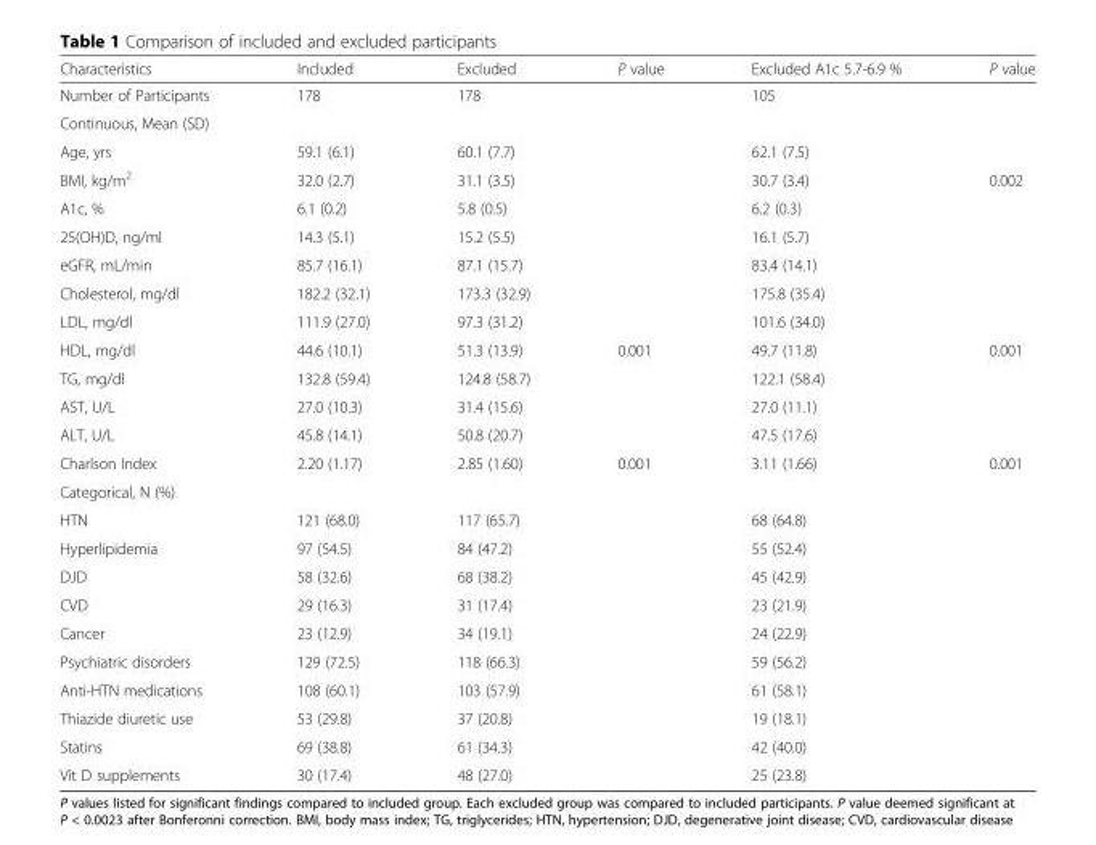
<table><thead><tr><td>Characteristics</td><td>Included</td><td>Excluded</td><td>P value</td><td>Excluded A1c 5.7-6.9 %</td><td>P value</td></tr></thead><tbody><tr><td>Number of Participants</td><td>178</td><td>178</td><td></td><td>105</td><td></td></tr><tr><td colspan="6">Continuous, Mean (SD)</td></tr><tr><td>Age, yrs</td><td>59.1 (6.1)</td><td>60.1 (7.7)</td><td></td><td>62.1 (7.5)</td><td></td></tr><tr><td>BMI, kg/m<sup>2</sup></td><td>32.0 (2.7)</td><td>31.1 (3.5)</td><td></td><td>30.7 (3.4)</td><td>0.002</td></tr><tr><td>A1c, %</td><td>6.1 (0.2)</td><td>5.8 (0.5)</td><td></td><td>6.2 (0.3)</td><td></td></tr><tr><td>25(OH)D, ng/ml</td><td>14.3 (5.1)</td><td>15.2 (5.5)</td><td></td><td>16.1 (5.7)</td><td></td></tr><tr><td>eGFR, mL/min</td><td>85.7 (16.1)</td><td>87.1 (15.7)</td><td></td><td>83.4 (14.1)</td><td></td></tr><tr><td>Cholesterol, mg/dl</td><td>182.2 (32.1)</td><td>173.3 (32.9)</td><td></td><td>175.8 (35.4)</td><td></td></tr><tr><td>LDL, mg/dl</td><td>111.9 (27.0)</td><td>97.3 (31.2)</td><td></td><td>101.6 (34.0)</td><td></td></tr><tr><td>HDL, mg/dl</td><td>44.6 (10.1)</td><td>51.3 (13.9)</td><td>0.001</td><td>49.7 (11.8)</td><td>0.001</td></tr><tr><td>TG, mg/dl</td><td>132.8 (59.4)</td><td>124.8 (58.7)</td><td></td><td>122.1 (58.4)</td><td></td></tr><tr><td>AST, U/L</td><td>27.0 (10.3)</td><td>31.4 (15.6)</td><td></td><td>27.0 (11.1)</td><td></td></tr><tr><td>ALT, U/L</td><td>45.8 (14.1)</td><td>50.8 (20.7)</td><td></td><td>47.5 (17.6)</td><td></td></tr><tr><td>Charlson Index</td><td>2.20 (1.17)</td><td>2.85 (1.60)</td><td>0.001</td><td>3.11 (1.66)</td><td>0.001</td></tr><tr><td colspan="6">Categorical, N (%)</td></tr><tr><td>HTN</td><td>121 (68.0)</td><td>117 (65.7)</td><td></td><td>68 (64.8)</td><td></td></tr><tr><td>Hyperlipidemia</td><td>97 (54.5)</td><td>84 (47.2)</td><td></td><td>55 (52.4)</td><td></td></tr><tr><td>DJD</td><td>58 (32.6)</td><td>68 (38.2)</td><td></td><td>45 (42.9)</td><td></td></tr><tr><td>CVD</td><td>29 (16.3)</td><td>31 (17.4)</td><td></td><td>23 (21.9)</td><td></td></tr><tr><td>Cancer</td><td>23 (12.9)</td><td>34 (19.1)</td><td></td><td>24 (22.9)</td><td></td></tr><tr><td>Psychiatric disorders</td><td>129 (72.5)</td><td>118 (66.3)</td><td></td><td>59 (56.2)</td><td></td></tr><tr><td>Anti-HTN medications</td><td>108 (60.1)</td><td>103 (57.9)</td><td></td><td>61 (58.1)</td><td></td></tr><tr><td>Thiazide diuretic use</td><td>53 (29.8)</td><td>37 (20.8)</td><td></td><td>19 (18.1)</td><td></td></tr><tr><td>Statins</td><td>69 (38.8)</td><td>61 (34.3)</td><td></td><td>42 (40.0)</td><td></td></tr><tr><td>Vit D supplements</td><td>30 (17.4)</td><td>48 (27.0)</td><td></td><td>25 (23.8)</td><td></td></tr></tbody></table>